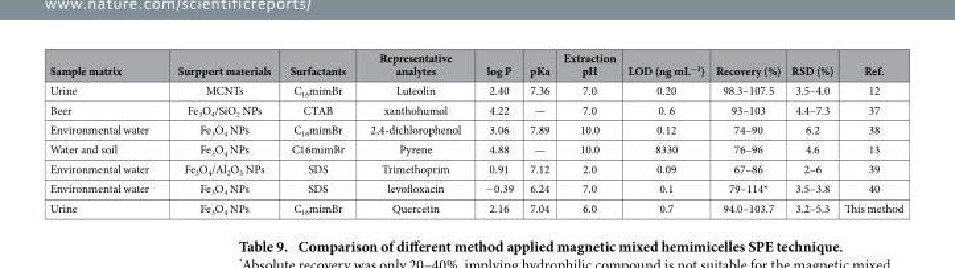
<table><thead><tr><td>Sample matrix</td><td>Surpport materials</td><td>Surfactants</td><td>Representative analytes</td><td>log P</td><td>pKa</td><td>Extraction pH</td><td>LOD (ng mL<sup>−1</sup>)</td><td>Recovery (%)</td><td>RSD (%)</td><td>Ref.</td></tr></thead><tbody><tr><td>Urine</td><td>MCNTs</td><td>C<sub>16</sub>mimBr</td><td>Luteolin</td><td>2.40</td><td>7.36</td><td>7.0</td><td>0.20</td><td>98.3–107.5</td><td>3.5–4.0</td><td>12</td></tr><tr><td>Beer</td><td>Fe<sub>3</sub>O<sub>4</sub>/SiO<sub>2</sub> NPs</td><td>CTAB</td><td>xanthohumol</td><td>4.22</td><td>—</td><td>7.0</td><td>0. 6</td><td>93–103</td><td>4.4–7.3</td><td>37</td></tr><tr><td>Environmental water</td><td>Fe<sub>3</sub>O<sub>4</sub> NPs</td><td>C<sub>16</sub>mimBr</td><td>2,4-dichlorophenol</td><td>3.06</td><td>7.89</td><td>10.0</td><td>0.12</td><td>74–90</td><td>6.2</td><td>38</td></tr><tr><td>Water and soil</td><td>Fe<sub>3</sub>O<sub>4</sub> NPs</td><td>C16mimBr</td><td>Pyrene</td><td>4.88</td><td>—</td><td>10.0</td><td>8330</td><td>76–96</td><td>4.6</td><td>13</td></tr><tr><td>Environmental water</td><td>Fe<sub>3</sub>O<sub>4</sub>/Al<sub>2</sub>O<sub>3</sub> NPs</td><td>SDS</td><td>Trimethoprim</td><td>0.91</td><td>7.12</td><td>2.0</td><td>0.09</td><td>67–86</td><td>2–6</td><td>39</td></tr><tr><td>Environmental water</td><td>Fe<sub>3</sub>O<sub>4</sub> NPs</td><td>SDS</td><td>levofloxacin</td><td>− 0.39</td><td>6.24</td><td>7.0</td><td>0.1</td><td>79–114*</td><td>3.5–3.8</td><td>40</td></tr><tr><td>Urine</td><td>Fe<sub>3</sub>O<sub>4</sub> NPs</td><td>C<sub>16</sub>mimBr</td><td>Quercetin</td><td>2.16</td><td>7.04</td><td>6.0</td><td>0.7</td><td>94.0–103.7</td><td>3.2–5.3</td><td>This method</td></tr></tbody></table>